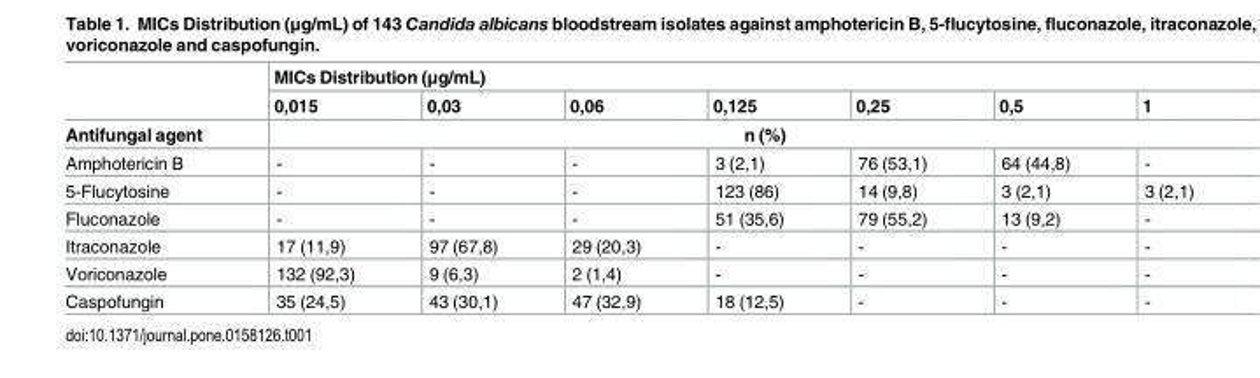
<table><thead><tr><td rowspan="3">Antifungal agent</td><td colspan="7">MICs Distribution (μg/mL)</td></tr><tr><td>0,015</td><td>0,03</td><td>0,06</td><td>0,125</td><td>0,25</td><td>0,5</td><td>1</td></tr><tr><td colspan="7">n (%)</td></tr></thead><tbody><tr><td>Amphotericin B</td><td>-</td><td>-</td><td>-</td><td>3 (2,1)</td><td>76 (53,1)</td><td>64 (44,8)</td><td>-</td></tr><tr><td>5-Flucytosine</td><td>-</td><td>-</td><td>-</td><td>123 (86)</td><td>14 (9,8)</td><td>3 (2,1)</td><td>3 (2,1)</td></tr><tr><td>Fluconazole</td><td>-</td><td>-</td><td>-</td><td>51 (35,6)</td><td>79 (55,2)</td><td>13 (9,2)</td><td>-</td></tr><tr><td>Itraconazole</td><td>17 (11,9)</td><td>97 (67,8)</td><td>29 (20,3)</td><td>-</td><td>-</td><td>-</td><td>-</td></tr><tr><td>Voriconazole</td><td>132 (92,3)</td><td>9 (6,3)</td><td>2 (1,4)</td><td>-</td><td>-</td><td>-</td><td>-</td></tr><tr><td>Caspofungin</td><td>35 (24,5)</td><td>43 (30,1)</td><td>47 (32,9)</td><td>18 (12,5)</td><td>-</td><td>-</td><td>-</td></tr></tbody></table>